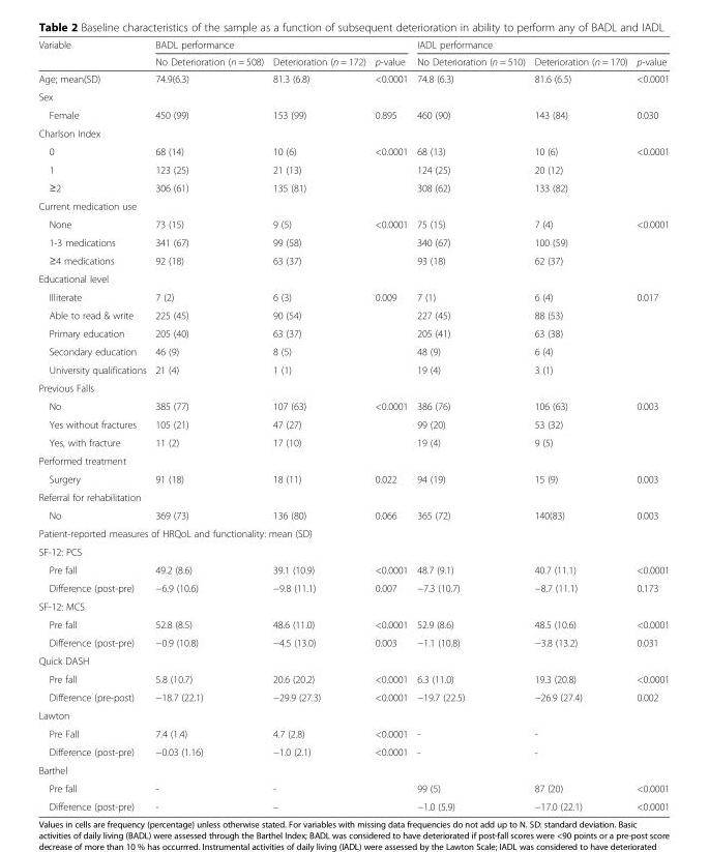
<table><thead><tr><td rowspan="2">Variable</td><td colspan="3">BADL performance</td><td colspan="3">IADL performance</td></tr><tr><td>No Deterioration (n = 508)</td><td>Deterioration (n = 172)</td><td>p-value</td><td>No Deterioration (n = 510)</td><td>Deterioration (n = 170)</td><td>p-value</td></tr></thead><tbody><tr><td>Age; mean(SD)</td><td>74.9(6.3)</td><td>81.3 (6.8)</td><td>&lt;0.0001</td><td>74.8 (6.3)</td><td>81.6 (6.5)</td><td>&lt;0.0001</td></tr><tr><td colspan="7">Sex</td></tr><tr><td>Female</td><td>450 (99)</td><td>153 (99)</td><td>0.895</td><td>460 (90)</td><td>143 (84)</td><td>0.030</td></tr><tr><td colspan="7">Charlson Index</td></tr><tr><td>0</td><td>68 (14)</td><td>10 (6)</td><td>&lt;0.0001</td><td>68 (13)</td><td>10 (6)</td><td>&lt;0.0001</td></tr><tr><td>1</td><td>123 (25)</td><td>21 (13)</td><td></td><td>124 (25)</td><td>20 (12)</td><td></td></tr><tr><td>≥2</td><td>306 (61)</td><td>135 (81)</td><td></td><td>308 (62)</td><td>133 (82)</td><td></td></tr><tr><td colspan="7">Current medication use</td></tr><tr><td>None</td><td>73 (15)</td><td>9 (5)</td><td>&lt;0.0001</td><td>75 (15)</td><td>7 (4)</td><td>&lt;0.0001</td></tr><tr><td>1-3 medications</td><td>341 (67)</td><td>99 (58)</td><td></td><td>340 (67)</td><td>100 (59)</td><td></td></tr><tr><td>≥4 medications</td><td>92 (18)</td><td>63 (37)</td><td></td><td>93 (18)</td><td>62 (37)</td><td></td></tr><tr><td colspan="7">Educational level</td></tr><tr><td>Illiterate</td><td>7 (2)</td><td>6 (3)</td><td>0.009</td><td>7 (1)</td><td>6 (4)</td><td>0.017</td></tr><tr><td>Able to read &amp; write</td><td>225 (45)</td><td>90 (54)</td><td></td><td>227 (45)</td><td>88 (53)</td><td></td></tr><tr><td>Primary education</td><td>205 (40)</td><td>63 (37)</td><td></td><td>205 (41)</td><td>63 (38)</td><td></td></tr><tr><td>Secondary education</td><td>46 (9)</td><td>8 (5)</td><td></td><td>48 (9)</td><td>6 (4)</td><td></td></tr><tr><td>University qualifications</td><td>21 (4)</td><td>1 (1)</td><td></td><td>19 (4)</td><td>3 (1)</td><td></td></tr><tr><td colspan="7">Previous Falls</td></tr><tr><td>No</td><td>385 (77)</td><td>107 (63)</td><td>&lt;0.0001</td><td>386 (76)</td><td>106 (63)</td><td>0.003</td></tr><tr><td>Yes without fractures</td><td>105 (21)</td><td>47 (27)</td><td></td><td>99 (20)</td><td>53 (32)</td><td></td></tr><tr><td>Yes, with fracture</td><td>11 (2)</td><td>17 (10)</td><td></td><td>19 (4)</td><td>9 (5)</td><td></td></tr><tr><td colspan="7">Performed treatment</td></tr><tr><td>Surgery</td><td>91 (18)</td><td>18 (11)</td><td>0.022</td><td>94 (19)</td><td>15 (9)</td><td>0.003</td></tr><tr><td colspan="7">Referral for rehabilitation</td></tr><tr><td>No</td><td>369 (73)</td><td>136 (80)</td><td>0.066</td><td>365 (72)</td><td>140(83)</td><td>0.003</td></tr><tr><td colspan="7">Patient-reported measures of HRQoL and functionality: mean (SD)</td></tr><tr><td colspan="7">SF-12: PCS</td></tr><tr><td>Pre fall</td><td>49.2 (8.6)</td><td>39.1 (10.9)</td><td>&lt;0.0001</td><td>48.7 (9.1)</td><td>40.7 (11.1)</td><td>&lt;0.0001</td></tr><tr><td>Difference (post-pre)</td><td>−6.9 (10.6)</td><td>−9.8 (11.1)</td><td>0.007</td><td>−7.3 (10.7)</td><td>−8.7 (11.1)</td><td>0.173</td></tr><tr><td colspan="7">SF-12: MCS</td></tr><tr><td>Pre fall</td><td>52.8 (8.5)</td><td>48.6 (11.0)</td><td>&lt;0.0001</td><td>52.9 (8.6)</td><td>48.5 (10.6)</td><td>&lt;0.0001</td></tr><tr><td>Difference (post-pre)</td><td>−0.9 (10.8)</td><td>−4.5 (13.0)</td><td>0.003</td><td>−1.1 (10.8)</td><td>−3.8 (13.2)</td><td>0.031</td></tr><tr><td colspan="7">Quick DASH</td></tr><tr><td>Pre fall</td><td>5.8 (10.7)</td><td>20.6 (20.2)</td><td>&lt;0.0001</td><td>6.3 (11.0)</td><td>19.3 (20.8)</td><td>&lt;0.0001</td></tr><tr><td>Difference (pre-post)</td><td>−18.7 (22.1)</td><td>−29.9 (27.3)</td><td>&lt;0.0001</td><td>−19.7 (22.5)</td><td>−26.9 (27.4)</td><td>0.002</td></tr><tr><td colspan="7">Lawton</td></tr><tr><td>Pre Fall</td><td>7.4 (1.4)</td><td>4.7 (2.8)</td><td>&lt;0.0001</td><td>-</td><td>-</td><td></td></tr><tr><td>Difference (post-pre)</td><td>−0.03 (1.16)</td><td>−1.0 (2.1)</td><td>&lt;0.0001</td><td>-</td><td>-</td><td></td></tr><tr><td colspan="7">Barthel</td></tr><tr><td>Pre fall</td><td>-</td><td>-</td><td></td><td>99 (5)</td><td>87 (20)</td><td>&lt;0.0001</td></tr><tr><td>Difference (post-pre)</td><td>-</td><td>–</td><td></td><td>−1.0 (5.9)</td><td>−17.0 (22.1)</td><td>&lt;0.0001</td></tr></tbody></table>